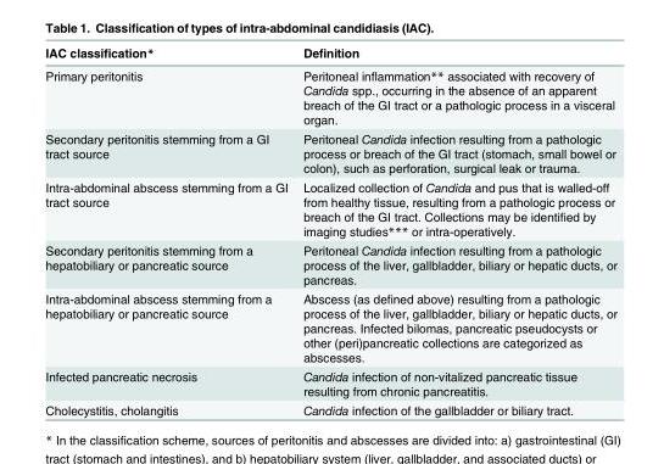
<table><thead><tr><td>IAC classification*</td><td>Definition</td></tr></thead><tbody><tr><td>Primary peritonitis</td><td>Peritoneal inflammation** associated with recovery of Candida spp., occurring in the absence of an apparent breach of the GI tract or a pathologic process in a visceral organ.</td></tr><tr><td>Secondary peritonitis stemming from a GI tract source</td><td>Peritoneal Candida infection resulting from a pathologic process or breach of the GI tract (stomach, small bowel or colon), such as perforation, surgical leak or trauma.</td></tr><tr><td>Intra-abdominal abscess stemming from a GI tract source</td><td>Localized collection of Candida and pus that is walled-off from healthy tissue, resulting from a pathologic process or breach of the GI tract. Collections may be identified by imaging studies*** or intra-operatively.</td></tr><tr><td>Secondary peritonitis stemming from a hepatobiliary or pancreatic source</td><td>Peritoneal Candida infection resulting from a pathologic process of the liver, gallbladder, biliary or hepatic ducts, or pancreas.</td></tr><tr><td>Intra-abdominal abscess stemming from a hepatobiliary or pancreatic source</td><td>Abscess (as defined above) resulting from a pathologic process of the liver, gallbladder, biliary or hepatic ducts, or pancreas. Infected bilomas, pancreatic pseudocysts or other (peri)pancreatic collections are categorized as abscesses.</td></tr><tr><td>Infected pancreatic necrosis</td><td>Candida infection of non-vitalized pancreatic tissue resulting from chronic pancreatitis.</td></tr><tr><td>Cholecystitis, cholangitis</td><td>Candida infection of the gallbladder or biliary tract.</td></tr></tbody></table>